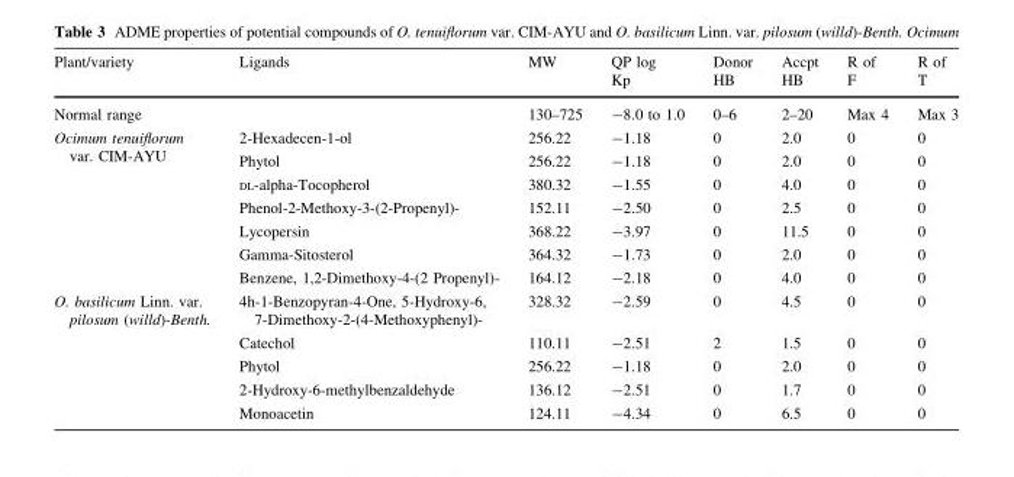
<table><thead><tr><td>Plant/variety</td><td>Ligands</td><td>MW</td><td>QP log Kp</td><td>Donor HB</td><td>Accpt HB</td><td>R of F</td><td>R of T</td></tr></thead><tbody><tr><td>Normal range</td><td></td><td>130–725</td><td>-8.0 to 1.0</td><td>0–6</td><td>2–20</td><td>Max 4</td><td>Max 3</td></tr><tr><td rowspan="7">Ocimum tenuiflorum var. CIM-AYU</td><td>2-Hexadecen-1-ol</td><td>256.22</td><td>-1.18</td><td>0</td><td>2.0</td><td>0</td><td>0</td></tr><tr><td>Phytol</td><td>256.22</td><td>-1.18</td><td>0</td><td>2.0</td><td>0</td><td>0</td></tr><tr><td>DL-alpha-Tocopherol</td><td>380.32</td><td>-1.55</td><td>0</td><td>4.0</td><td>0</td><td>0</td></tr><tr><td>Phenol-2-Methoxy-3-(2-Propenyl)-</td><td>152.11</td><td>-2.50</td><td>0</td><td>2.5</td><td>0</td><td>0</td></tr><tr><td>Lycopersin</td><td>368.22</td><td>-3.97</td><td>0</td><td>11.5</td><td>0</td><td>0</td></tr><tr><td>Gamma-Sitosterol</td><td>364.32</td><td>-1.73</td><td>0</td><td>2.0</td><td>0</td><td>0</td></tr><tr><td>Benzene, 1,2-Dimethoxy-4-(2 Propenyl)-</td><td>164.12</td><td>-2.18</td><td>0</td><td>4.0</td><td>0</td><td>0</td></tr><tr><td rowspan="5">O. basilicum Linn. var. pilosum (willd)-Benth.</td><td>4h-1-Benzopyran-4-One, 5-Hydroxy-6, 7-Dimethoxy-2-(4-Methoxyphenyl)-</td><td>328.32</td><td>-2.59</td><td>0</td><td>4.5</td><td>0</td><td>0</td></tr><tr><td>Catechol</td><td>110.11</td><td>-2.51</td><td>2</td><td>1.5</td><td>0</td><td>0</td></tr><tr><td>Phytol</td><td>256.22</td><td>-1.18</td><td>0</td><td>2.0</td><td>0</td><td>0</td></tr><tr><td>2-Hydroxy-6-methylbenzaldehyde</td><td>136.12</td><td>-2.51</td><td>0</td><td>1.7</td><td>0</td><td>0</td></tr><tr><td>Monoacetin</td><td>124.11</td><td>-4.34</td><td>0</td><td>6.5</td><td>0</td><td>0</td></tr></tbody></table>